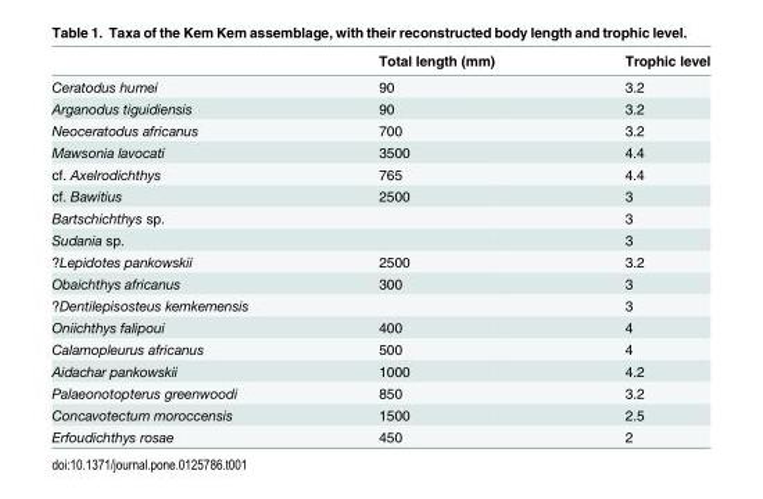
<table><thead><tr><td></td><td>Total length (mm)</td><td>Trophic level</td></tr></thead><tbody><tr><td>Ceratodus humei</td><td>90</td><td>3.2</td></tr><tr><td>Arganodus tiguidiensis</td><td>90</td><td>3.2</td></tr><tr><td>Neoceratodus africanus</td><td>700</td><td>3.2</td></tr><tr><td>Mawsonia lavocati</td><td>3500</td><td>4.4</td></tr><tr><td>cf. Axelrodichthys</td><td>765</td><td>4.4</td></tr><tr><td>cf. Bawitius</td><td>2500</td><td>3</td></tr><tr><td>Bartschichthys sp.</td><td></td><td>3</td></tr><tr><td>Sudania sp.</td><td></td><td>3</td></tr><tr><td>?Lepidotes pankowskii</td><td>2500</td><td>3.2</td></tr><tr><td>Obaichthys africanus</td><td>300</td><td>3</td></tr><tr><td>?Dentilepisosteus kemkemensis</td><td></td><td>3</td></tr><tr><td>Oniichthys falipoui</td><td>400</td><td>4</td></tr><tr><td>Calamopleurus africanus</td><td>500</td><td>4</td></tr><tr><td>Aidachar pankowskii</td><td>1000</td><td>4.2</td></tr><tr><td>Palaeonotopterus greenwoodi</td><td>850</td><td>3.2</td></tr><tr><td>Concavotectum moroccensis</td><td>1500</td><td>2.5</td></tr><tr><td>Erfoudichthys rosae</td><td>450</td><td>2</td></tr></tbody></table>